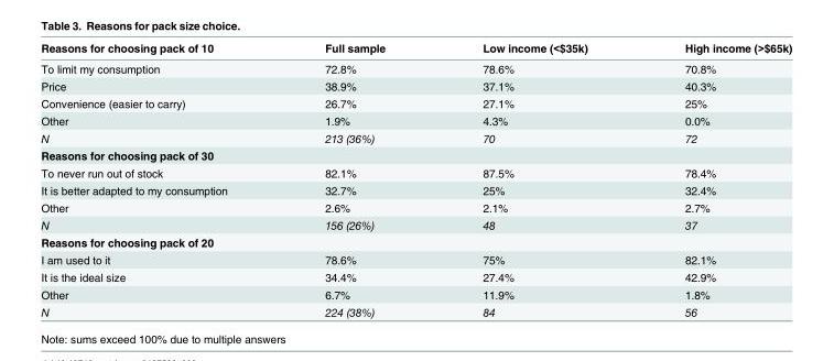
<table><thead><tr><td>Reasons for choosing pack of 10</td><td>Full sample</td><td>Low income (&lt;$35k)</td><td>High income (&gt;$65k)</td></tr></thead><tbody><tr><td>To limit my consumption</td><td>72.8%</td><td>78.6%</td><td>70.8%</td></tr><tr><td>Price</td><td>38.9%</td><td>37.1%</td><td>40.3%</td></tr><tr><td>Convenience (easier to carry)</td><td>26.7%</td><td>27.1%</td><td>25%</td></tr><tr><td>Other</td><td>1.9%</td><td>4.3%</td><td>0.0%</td></tr><tr><td>N</td><td>213 (36%)</td><td>70</td><td>72</td></tr><tr><td colspan="4">Reasons for choosing pack of 30</td></tr><tr><td>To never run out of stock</td><td>82.1%</td><td>87.5%</td><td>78.4%</td></tr><tr><td>It is better adapted to my consumption</td><td>32.7%</td><td>25%</td><td>32.4%</td></tr><tr><td>Other</td><td>2.6%</td><td>2.1%</td><td>2.7%</td></tr><tr><td>N</td><td>156 (26%)</td><td>48</td><td>37</td></tr><tr><td colspan="4">Reasons for choosing pack of 20</td></tr><tr><td>I am used to it</td><td>78.6%</td><td>75%</td><td>82.1%</td></tr><tr><td>It is the ideal size</td><td>34.4%</td><td>27.4%</td><td>42.9%</td></tr><tr><td>Other</td><td>6.7%</td><td>11.9%</td><td>1.8%</td></tr><tr><td>N</td><td>224 (38%)</td><td>84</td><td>56</td></tr></tbody></table>